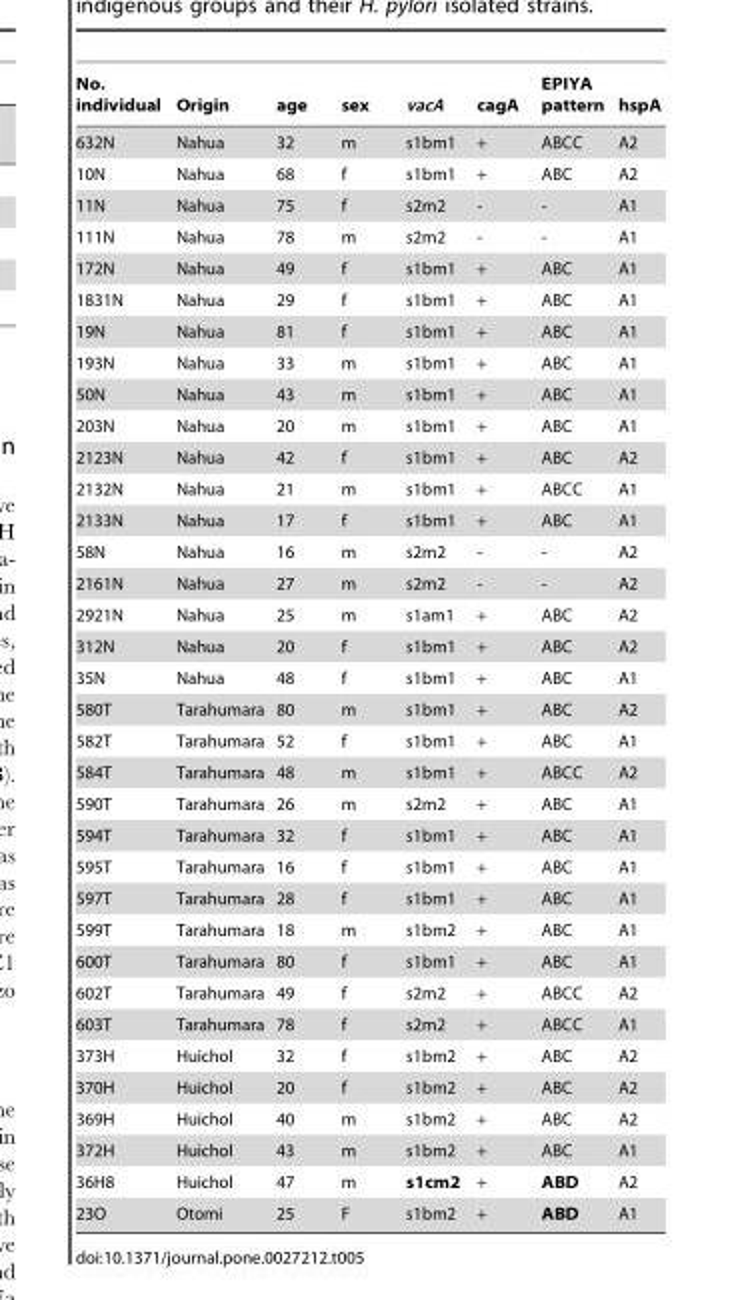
<table><thead><tr><td>No. individual</td><td>Origin</td><td>age</td><td>sex</td><td>vacA</td><td>cagA</td><td>EPIYA pattern</td><td>hspA</td></tr></thead><tbody><tr><td>632N</td><td>Nahua</td><td>32</td><td>m</td><td>s1bm1</td><td>+</td><td>ABCC</td><td>A2</td></tr><tr><td>10N</td><td>Nahua</td><td>68</td><td>f</td><td>s1bm1</td><td>+</td><td>ABC</td><td>A2</td></tr><tr><td>11N</td><td>Nahua</td><td>75</td><td>f</td><td>s2m2</td><td>-</td><td>-</td><td>A1</td></tr><tr><td>111N</td><td>Nahua</td><td>78</td><td>m</td><td>s2m2</td><td>-</td><td>-</td><td>A1</td></tr><tr><td>172N</td><td>Nahua</td><td>49</td><td>f</td><td>s1bm1</td><td>+</td><td>ABC</td><td>A1</td></tr><tr><td>1831N</td><td>Nahua</td><td>29</td><td>f</td><td>s1bm1</td><td>+</td><td>ABC</td><td>A1</td></tr><tr><td>19N</td><td>Nahua</td><td>81</td><td>f</td><td>s1bm1</td><td>+</td><td>ABC</td><td>A1</td></tr><tr><td>193N</td><td>Nahua</td><td>33</td><td>m</td><td>s1bm1</td><td>+</td><td>ABC</td><td>A1</td></tr><tr><td>50N</td><td>Nahua</td><td>43</td><td>m</td><td>s1bm1</td><td>+</td><td>ABC</td><td>A1</td></tr><tr><td>203N</td><td>Nahua</td><td>20</td><td>m</td><td>s1bm1</td><td>+</td><td>ABC</td><td>A1</td></tr><tr><td>2123N</td><td>Nahua</td><td>42</td><td>f</td><td>s1bm1</td><td>+</td><td>ABC</td><td>A2</td></tr><tr><td>2132N</td><td>Nahua</td><td>21</td><td>m</td><td>s1bm1</td><td>+</td><td>ABCC</td><td>A1</td></tr><tr><td>2133N</td><td>Nahua</td><td>17</td><td>f</td><td>s1bm1</td><td>+</td><td>ABC</td><td>A1</td></tr><tr><td>58N</td><td>Nahua</td><td>16</td><td>m</td><td>s2m2</td><td>-</td><td>-</td><td>A2</td></tr><tr><td>2161N</td><td>Nahua</td><td>27</td><td>m</td><td>s2m2</td><td>-</td><td>-</td><td>A2</td></tr><tr><td>2921N</td><td>Nahua</td><td>25</td><td>m</td><td>s1am1</td><td>+</td><td>ABC</td><td>A2</td></tr><tr><td>312N</td><td>Nahua</td><td>20</td><td>f</td><td>s1bm1</td><td>+</td><td>ABC</td><td>A2</td></tr><tr><td>35N</td><td>Nahua</td><td>48</td><td>f</td><td>s1bm1</td><td>+</td><td>ABC</td><td>A1</td></tr><tr><td>580T</td><td>Tarahumara</td><td>80</td><td>m</td><td>s1bm1</td><td>+</td><td>ABC</td><td>A2</td></tr><tr><td>582T</td><td>Tarahumara</td><td>52</td><td>f</td><td>s1bm1</td><td>+</td><td>ABC</td><td>A1</td></tr><tr><td>584T</td><td>Tarahumara</td><td>48</td><td>m</td><td>s1bm1</td><td>+</td><td>ABCC</td><td>A2</td></tr><tr><td>590T</td><td>Tarahumara</td><td>26</td><td>m</td><td>s2m2</td><td>+</td><td>ABC</td><td>A1</td></tr><tr><td>594T</td><td>Tarahumara</td><td>32</td><td>f</td><td>s1bm1</td><td>+</td><td>ABC</td><td>A1</td></tr><tr><td>595T</td><td>Tarahumara</td><td>16</td><td>f</td><td>s1bm1</td><td>+</td><td>ABC</td><td>A1</td></tr><tr><td>597T</td><td>Tarahumara</td><td>28</td><td>f</td><td>s1bm1</td><td>+</td><td>ABC</td><td>A1</td></tr><tr><td>599T</td><td>Tarahumara</td><td>18</td><td>m</td><td>s1bm2</td><td>+</td><td>ABC</td><td>A1</td></tr><tr><td>600T</td><td>Tarahumara</td><td>80</td><td>f</td><td>s1bm1</td><td>+</td><td>ABC</td><td>A1</td></tr><tr><td>602T</td><td>Tarahumara</td><td>49</td><td>f</td><td>s2m2</td><td>+</td><td>ABCC</td><td>A2</td></tr><tr><td>603T</td><td>Tarahumara</td><td>78</td><td>f</td><td>s2m2</td><td>+</td><td>ABCC</td><td>A1</td></tr><tr><td>373H</td><td>Huichol</td><td>32</td><td>f</td><td>s1bm2</td><td>+</td><td>ABC</td><td>A2</td></tr><tr><td>370H</td><td>Huichol</td><td>20</td><td>f</td><td>s1bm2</td><td>+</td><td>ABC</td><td>A2</td></tr><tr><td>369H</td><td>Huichol</td><td>40</td><td>m</td><td>s1bm2</td><td>+</td><td>ABC</td><td>A2</td></tr><tr><td>372H</td><td>Huichol</td><td>43</td><td>m</td><td>s1bm2</td><td>+</td><td>ABC</td><td>A1</td></tr><tr><td>36H8</td><td>Huichol</td><td>47</td><td>m</td><td>s1cm2</td><td>+</td><td>ABD</td><td>A2</td></tr><tr><td>23O</td><td>Otomi</td><td>25</td><td>F</td><td>s1bm2</td><td>+</td><td>ABD</td><td>A1</td></tr></tbody></table>